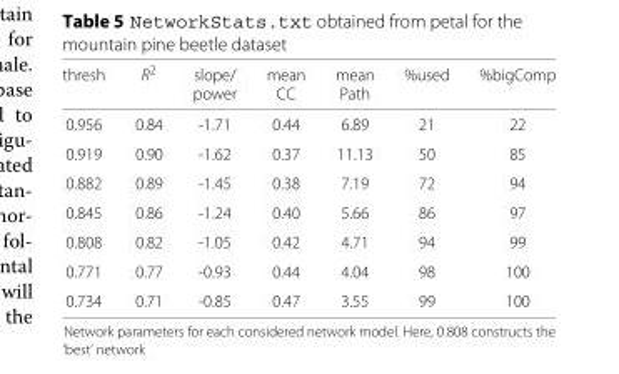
<table><thead><tr><td rowspan="2">thresh</td><td rowspan="2">R<sup>2</sup></td><td rowspan="2">slope/ power</td><td rowspan="2">mean CC</td><td rowspan="2">mean Path</td><td rowspan="2">%used</td><td rowspan="2">%bigComp</td></tr><tr></tr></thead><tbody><tr><td>0.956</td><td>0.84</td><td>-1.71</td><td>0.44</td><td>6.89</td><td>21</td><td>22</td></tr><tr><td>0.919</td><td>0.90</td><td>-1.62</td><td>0.37</td><td>11.13</td><td>50</td><td>85</td></tr><tr><td>0.882</td><td>0.89</td><td>-1.45</td><td>0.38</td><td>7.19</td><td>72</td><td>94</td></tr><tr><td>0.845</td><td>0.86</td><td>-1.24</td><td>0.40</td><td>5.66</td><td>86</td><td>97</td></tr><tr><td>0.808</td><td>0.82</td><td>-1.05</td><td>0.42</td><td>4.71</td><td>94</td><td>99</td></tr><tr><td>0.771</td><td>0.77</td><td>-0.93</td><td>0.44</td><td>4.04</td><td>98</td><td>100</td></tr><tr><td>0.734</td><td>0.71</td><td>-0.85</td><td>0.47</td><td>3.55</td><td>99</td><td>100</td></tr></tbody></table>